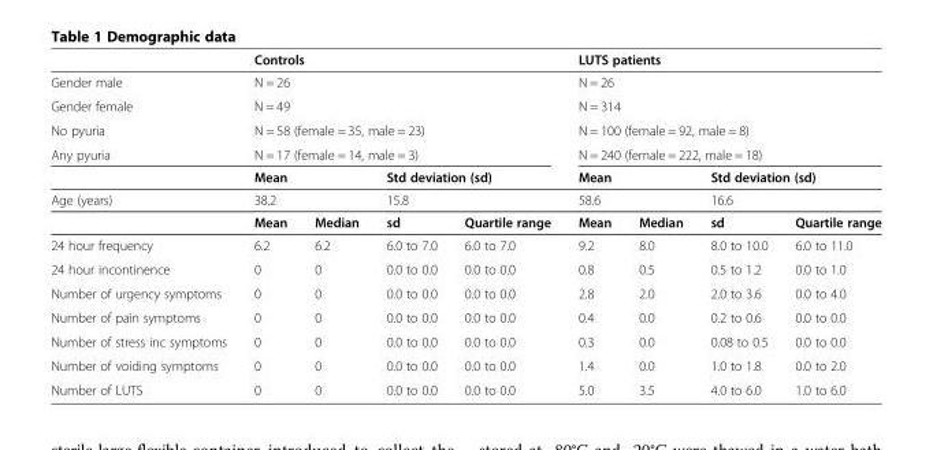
<table><thead><tr><td></td><td colspan="4">Controls</td><td colspan="4">LUTS patients</td></tr></thead><tbody><tr><td>Gender male</td><td colspan="4">N = 26</td><td colspan="4">N = 26</td></tr><tr><td>Gender female</td><td colspan="4">N = 49</td><td colspan="4">N = 314</td></tr><tr><td>No pyuria</td><td colspan="4">N = 58 (female = 35, male = 23)</td><td colspan="4">N = 100 (female = 92, male = 8)</td></tr><tr><td rowspan="2">Any pyuria</td><td colspan="4">N = 17 (female = 14, male = 3)</td><td colspan="4">N = 240 (female = 222, male = 18)</td></tr><tr><td colspan="2">Mean</td><td colspan="2">Std deviation (sd)</td><td colspan="2">Mean</td><td colspan="2">Std deviation (sd)</td></tr><tr><td rowspan="2">Age (years)</td><td colspan="2">38.2</td><td colspan="2">15.8</td><td colspan="2">58.6</td><td colspan="2">16.6</td></tr><tr><td>Mean</td><td>Median</td><td>sd</td><td>Quartile range</td><td>Mean</td><td>Median</td><td>sd</td><td>Quartile range</td></tr><tr><td>24 hour frequency</td><td>6.2</td><td>6.2</td><td>6.0 to 7.0</td><td>6.0 to 7.0</td><td>9.2</td><td>8.0</td><td>8.0 to 10.0</td><td>6.0 to 11.0</td></tr><tr><td>24 hour incontinence</td><td>0</td><td>0</td><td>0.0 to 0.0</td><td>0.0 to 0.0</td><td>0.8</td><td>0.5</td><td>0.5 to 1.2</td><td>0.0 to 1.0</td></tr><tr><td>Number of urgency symptoms</td><td>0</td><td>0</td><td>0.0 to 0.0</td><td>0.0 to 0.0</td><td>2.8</td><td>2.0</td><td>2.0 to 3.6</td><td>0.0 to 4.0</td></tr><tr><td>Number of pain symptoms</td><td>0</td><td>0</td><td>0.0 to 0.0</td><td>0.0 to 0.0</td><td>0.4</td><td>0.0</td><td>0.2 to 0.6</td><td>0.0 to 0.0</td></tr><tr><td>Number of stress inc symptoms</td><td>0</td><td>0</td><td>0.0 to 0.0</td><td>0.0 to 0.0</td><td>0.3</td><td>0.0</td><td>0.08 to 0.5</td><td>0.0 to 0.0</td></tr><tr><td>Number of voiding symptoms</td><td>0</td><td>0</td><td>0.0 to 0.0</td><td>0.0 to 0.0</td><td>1.4</td><td>0.0</td><td>1.0 to 1.8</td><td>0.0 to 2.0</td></tr><tr><td>Number of LUTS</td><td>0</td><td>0</td><td>0.0 to 0.0</td><td>0.0 to 0.0</td><td>5.0</td><td>3.5</td><td>4.0 to 6.0</td><td>1.0 to 6.0</td></tr></tbody></table>